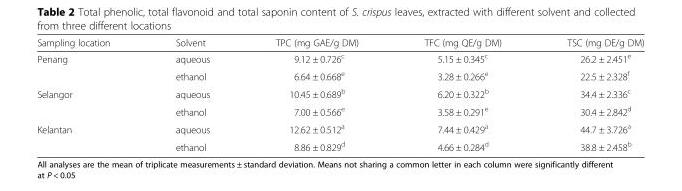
<table><thead><tr><td>Sampling location</td><td>Solvent</td><td>TPC (mg GAE/g DM)</td><td>TFC (mg QE/g DM)</td><td>TSC (mg DE/g DM)</td></tr></thead><tbody><tr><td rowspan="2">Penang</td><td>aqueous</td><td>9.12 ± 0.726<sup>c</sup></td><td>5.15 ± 0.345<sup>c</sup></td><td>26.2 ± 2.451<sup>e</sup></td></tr><tr><td>ethanol</td><td>6.64 ± 0.668<sup>e</sup></td><td>3.28 ± 0.266<sup>e</sup></td><td>22.5 ± 2.328<sup>f</sup></td></tr><tr><td rowspan="2">Selangor</td><td>aqueous</td><td>10.45 ± 0.689<sup>b</sup></td><td>6.20 ± 0.322<sup>b</sup></td><td>34.4 ± 2.336<sup>c</sup></td></tr><tr><td>ethanol</td><td>7.00 ± 0.566<sup>e</sup></td><td>3.58 ± 0.291<sup>e</sup></td><td>30.4 ± 2.842<sup>d</sup></td></tr><tr><td rowspan="2">Kelantan</td><td>aqueous</td><td>12.62 ± 0.512<sup>a</sup></td><td>7.44 ± 0.429<sup>a</sup></td><td>44.7 ± 3.726<sup>a</sup></td></tr><tr><td>ethanol</td><td>8.86 ± 0.829<sup>d</sup></td><td>4.66 ± 0.284<sup>d</sup></td><td>38.8 ± 2.458<sup>b</sup></td></tr></tbody></table>